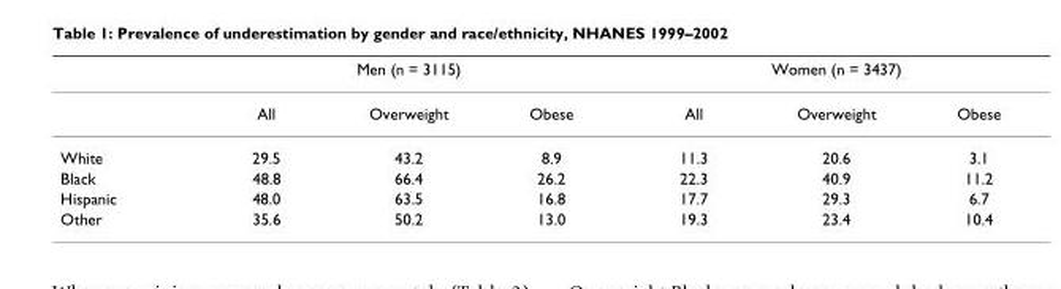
<table><thead><tr><td rowspan="2"></td><td colspan="3">Men (n = 3115)</td><td colspan="3">Women (n = 3437)</td></tr><tr><td>All</td><td>Overweight</td><td>Obese</td><td>All</td><td>Overweight</td><td>Obese</td></tr></thead><tbody><tr><td>White</td><td>29.5</td><td>43.2</td><td>8.9</td><td>11.3</td><td>20.6</td><td>3.1</td></tr><tr><td>Black</td><td>48.8</td><td>66.4</td><td>26.2</td><td>22.3</td><td>40.9</td><td>11.2</td></tr><tr><td>Hispanic</td><td>48.0</td><td>63.5</td><td>16.8</td><td>17.7</td><td>29.3</td><td>6.7</td></tr><tr><td>Other</td><td>35.6</td><td>50.2</td><td>13.0</td><td>19.3</td><td>23.4</td><td>10.4</td></tr></tbody></table>